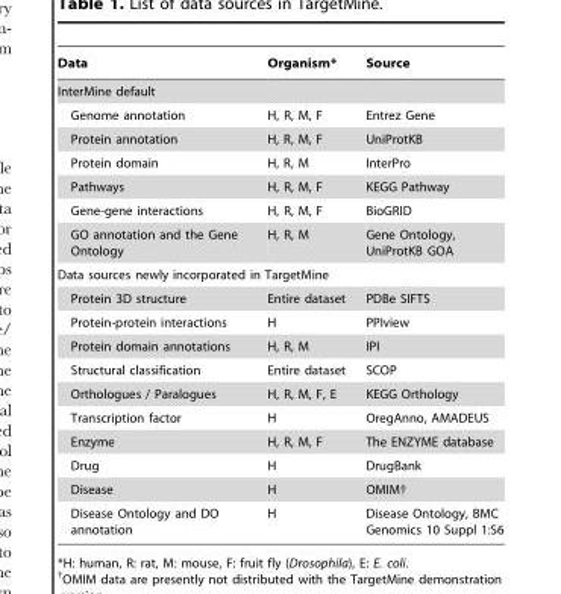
<table><thead><tr><td>Data</td><td>Organism*</td><td>Source</td></tr></thead><tbody><tr><td colspan="3">InterMine default</td></tr><tr><td>Genome annotation</td><td>H, R, M, F</td><td>Entrez Gene</td></tr><tr><td>Protein annotation</td><td>H, R, M, F</td><td>UniProtKB</td></tr><tr><td>Protein domain</td><td>H, R, M</td><td>InterPro</td></tr><tr><td>Pathways</td><td>H, R, M, F</td><td>KEGG Pathway</td></tr><tr><td>Gene-gene interactions</td><td>H, R, M, F</td><td>BioGRID</td></tr><tr><td>GO annotation and the Gene Ontology</td><td>H, R, M</td><td>Gene Ontology, UniProtKB GOA</td></tr><tr><td colspan="3">Data sources newly incorporated in TargetMine</td></tr><tr><td>Protein 3D structure</td><td>Entire dataset</td><td>PDBe SIFTS</td></tr><tr><td>Protein-protein interactions</td><td>H</td><td>PPIview</td></tr><tr><td>Protein domain annotations</td><td>H, R, M</td><td>IPI</td></tr><tr><td>Structural classification</td><td>Entire dataset</td><td>SCOP</td></tr><tr><td>Orthologues / Paralogues</td><td>H, R, M, F, E</td><td>KEGG Orthology</td></tr><tr><td>Transcription factor</td><td>H</td><td>OregAnno, AMADEUS</td></tr><tr><td>Enzyme</td><td>H, R, M, F</td><td>The ENZYME database</td></tr><tr><td>Drug</td><td>H</td><td>DrugBank</td></tr><tr><td>Disease</td><td>H</td><td>OMIM†</td></tr><tr><td>Disease Ontology and DO annotation</td><td>H</td><td>Disease Ontology, BMC Genomics 10 Suppl 1:S6</td></tr></tbody></table>